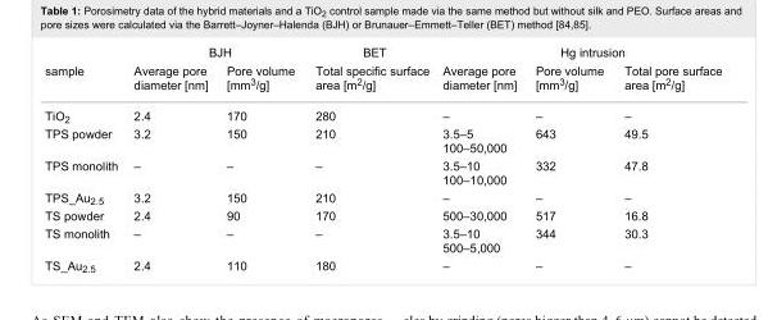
<table><thead><tr><td rowspan="2">sample</td><td colspan="2">BJH</td><td rowspan="2">BET Total specific surface area [m<sup>2</sup>/g]</td><td colspan="3">Hg intrusion</td></tr><tr><td>Average pore diameter [nm]</td><td>Pore volume [mm<sup>3</sup>/g]</td><td>Average pore diameter [nm]</td><td>Pore volume [mm<sup>3</sup>/g]</td><td>Total pore surface area [m<sup>2</sup>/g]</td></tr></thead><tbody><tr><td>TiO<sub>2</sub></td><td>2.4</td><td>170</td><td>280</td><td>–</td><td>–</td><td>–</td></tr><tr><td>TPS powder</td><td>3.2</td><td>150</td><td>210</td><td>3.5–5 100–50,000</td><td>643</td><td>49.5</td></tr><tr><td>TPS monolith</td><td>–</td><td>–</td><td>–</td><td>3.5–10 100–10,000</td><td>332</td><td>47.8</td></tr><tr><td>TPS_Au<sub>2.5</sub></td><td>3.2</td><td>150</td><td>210</td><td>–</td><td>–</td><td>–</td></tr><tr><td>TS powder</td><td>2.4</td><td>90</td><td>170</td><td>500–30,000</td><td>517</td><td>16.8</td></tr><tr><td>TS monolith</td><td>–</td><td>–</td><td>–</td><td>3.5–10 500–5,000</td><td>344</td><td>30.3</td></tr><tr><td>TS_Au<sub>2.5</sub></td><td>2.4</td><td>110</td><td>180</td><td>–</td><td>–</td><td>–</td></tr></tbody></table>